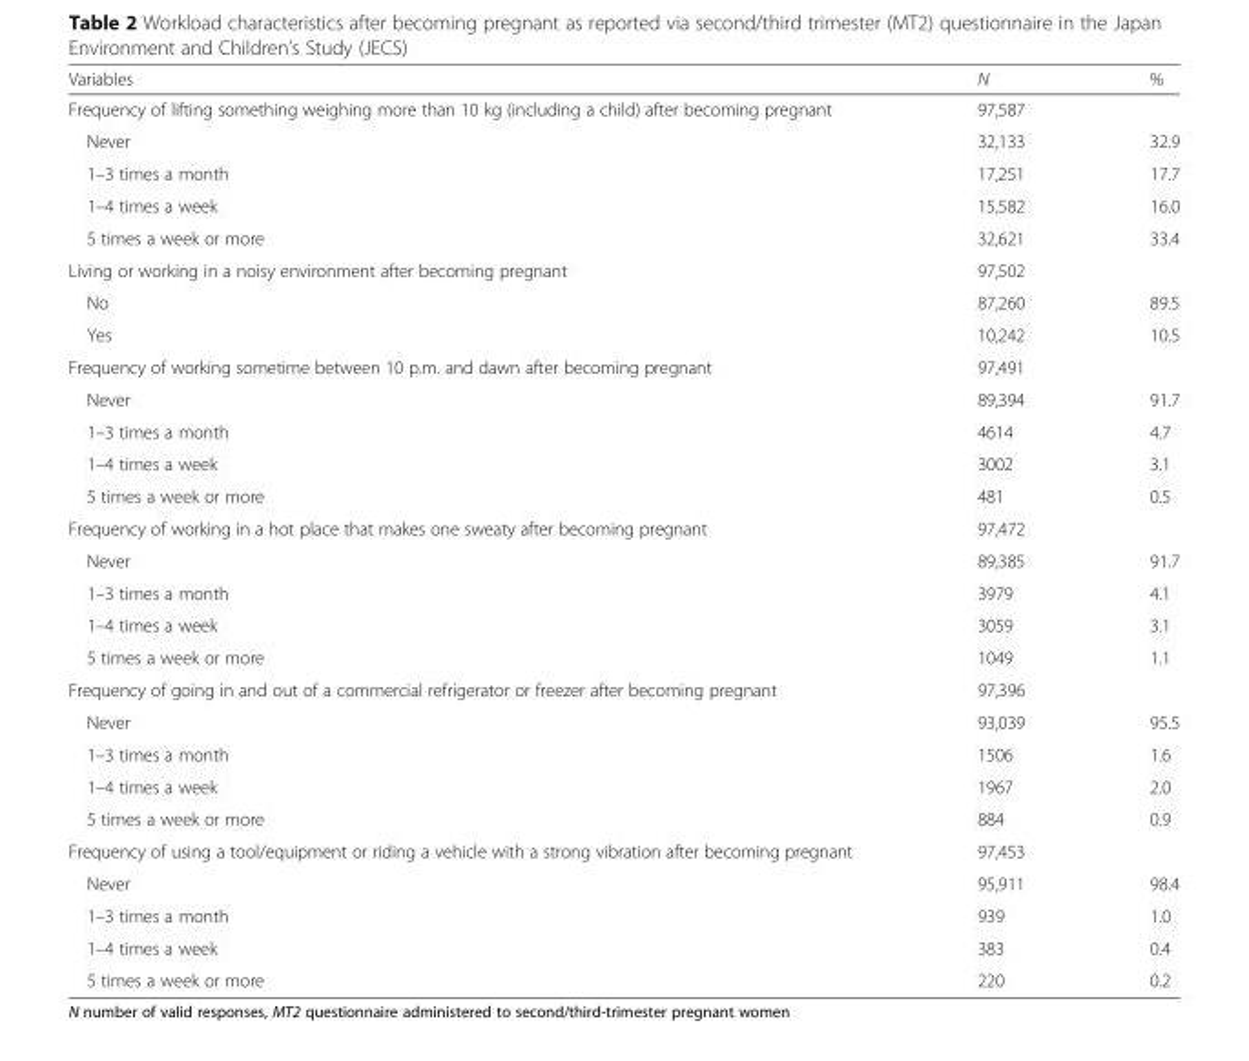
<table><thead><tr><td>Variables</td><td>N</td><td>%</td></tr></thead><tbody><tr><td>Frequency of lifting something weighing more than 10 kg (including a child) after becoming pregnant</td><td>97,587</td><td></td></tr><tr><td>Never</td><td>32,133</td><td>32.9</td></tr><tr><td>1–3 times a month</td><td>17,251</td><td>17.7</td></tr><tr><td>1–4 times a week</td><td>15,582</td><td>16.0</td></tr><tr><td>5 times a week or more</td><td>32,621</td><td>33.4</td></tr><tr><td>Living or working in a noisy environment after becoming pregnant</td><td>97,502</td><td></td></tr><tr><td>No</td><td>87,260</td><td>89.5</td></tr><tr><td>Yes</td><td>10,242</td><td>10.5</td></tr><tr><td>Frequency of working sometime between 10 p.m. and dawn after becoming pregnant</td><td>97,491</td><td></td></tr><tr><td>Never</td><td>89,394</td><td>91.7</td></tr><tr><td>1–3 times a month</td><td>4614</td><td>4.7</td></tr><tr><td>1–4 times a week</td><td>3002</td><td>3.1</td></tr><tr><td>5 times a week or more</td><td>481</td><td>0.5</td></tr><tr><td>Frequency of working in a hot place that makes one sweaty after becoming pregnant</td><td>97,472</td><td></td></tr><tr><td>Never</td><td>89,385</td><td>91.7</td></tr><tr><td>1–3 times a month</td><td>3979</td><td>4.1</td></tr><tr><td>1–4 times a week</td><td>3059</td><td>3.1</td></tr><tr><td>5 times a week or more</td><td>1049</td><td>1.1</td></tr><tr><td>Frequency of going in and out of a commercial refrigerator or freezer after becoming pregnant</td><td>97,396</td><td></td></tr><tr><td>Never</td><td>93,039</td><td>95.5</td></tr><tr><td>1–3 times a month</td><td>1506</td><td>1.6</td></tr><tr><td>1–4 times a week</td><td>1967</td><td>2.0</td></tr><tr><td>5 times a week or more</td><td>884</td><td>0.9</td></tr><tr><td>Frequency of using a tool/equipment or riding a vehicle with a strong vibration after becoming pregnant</td><td>97,453</td><td></td></tr><tr><td>Never</td><td>95,911</td><td>98.4</td></tr><tr><td>1–3 times a month</td><td>939</td><td>1.0</td></tr><tr><td>1–4 times a week</td><td>383</td><td>0.4</td></tr><tr><td>5 times a week or more</td><td>220</td><td>0.2</td></tr></tbody></table>